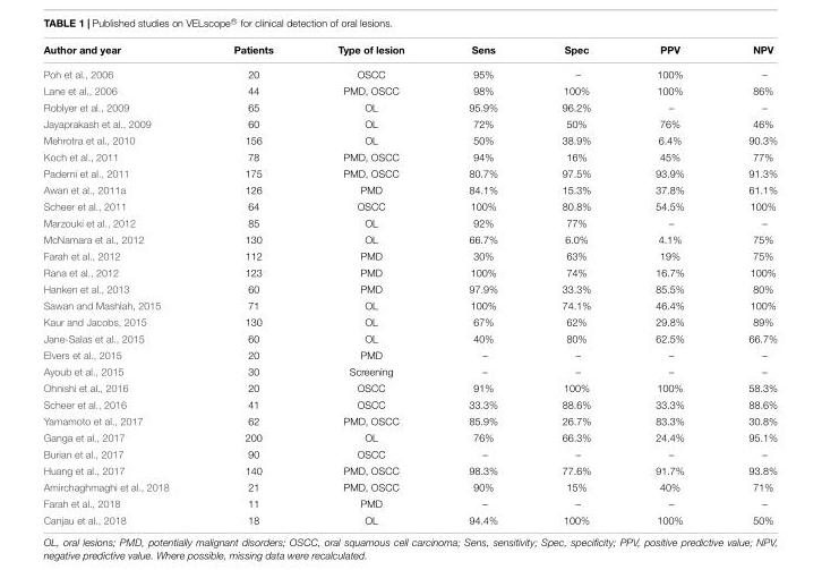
<table><thead><tr><td>Author and year</td><td>Patients</td><td>Type of lesion</td><td>Sens</td><td>Spec</td><td>PPV</td><td>NPV</td></tr></thead><tbody><tr><td>Poh et al., 2006</td><td>20</td><td>OSCC</td><td>95%</td><td>–</td><td>100%</td><td>–</td></tr><tr><td>Lane et al., 2006</td><td>44</td><td>PMD, OSCC</td><td>98%</td><td>100%</td><td>100%</td><td>86%</td></tr><tr><td>Roblyer et al., 2009</td><td>65</td><td>OL</td><td>95.9%</td><td>96.2%</td><td>–</td><td>–</td></tr><tr><td>Jayaprakash et al., 2009</td><td>60</td><td>OL</td><td>72%</td><td>50%</td><td>76%</td><td>46%</td></tr><tr><td>Mehrotra et al., 2010</td><td>156</td><td>OL</td><td>50%</td><td>38.9%</td><td>6.4%</td><td>90.3%</td></tr><tr><td>Koch et al., 2011</td><td>78</td><td>PMD, OSCC</td><td>94%</td><td>16%</td><td>45%</td><td>77%</td></tr><tr><td>Paderni et al., 2011</td><td>175</td><td>PMD, OSCC</td><td>80.7%</td><td>97.5%</td><td>93.9%</td><td>91.3%</td></tr><tr><td>Awan et al., 2011a</td><td>126</td><td>PMD</td><td>84.1%</td><td>15.3%</td><td>37.8%</td><td>61.1%</td></tr><tr><td>Scheer et al., 2011</td><td>64</td><td>OSCC</td><td>100%</td><td>80.8%</td><td>54.5%</td><td>100%</td></tr><tr><td>Marzouki et al., 2012</td><td>85</td><td>OL</td><td>92%</td><td>77%</td><td>–</td><td>–</td></tr><tr><td>McNamara et al., 2012</td><td>130</td><td>OL</td><td>66.7%</td><td>6.0%</td><td>4.1%</td><td>75%</td></tr><tr><td>Farah et al., 2012</td><td>112</td><td>PMD</td><td>30%</td><td>63%</td><td>19%</td><td>75%</td></tr><tr><td>Rana et al., 2012</td><td>123</td><td>PMD</td><td>100%</td><td>74%</td><td>16.7%</td><td>100%</td></tr><tr><td>Hanken et al., 2013</td><td>60</td><td>PMD</td><td>97.9%</td><td>33.3%</td><td>85.5%</td><td>80%</td></tr><tr><td>Sawan and Mashlah, 2015</td><td>71</td><td>OL</td><td>100%</td><td>74.1%</td><td>46.4%</td><td>100%</td></tr><tr><td>Kaur and Jacobs, 2015</td><td>130</td><td>OL</td><td>67%</td><td>62%</td><td>29.8%</td><td>89%</td></tr><tr><td>Jane-Salas et al., 2015</td><td>60</td><td>OL</td><td>40%</td><td>80%</td><td>62.5%</td><td>66.7%</td></tr><tr><td>Elvers et al., 2015</td><td>20</td><td>PMD</td><td>–</td><td>–</td><td>–</td><td>–</td></tr><tr><td>Ayoub et al., 2015</td><td>30</td><td>Screening</td><td>–</td><td>–</td><td>–</td><td>–</td></tr><tr><td>Ohnishi et al., 2016</td><td>20</td><td>OSCC</td><td>91%</td><td>100%</td><td>100%</td><td>58.3%</td></tr><tr><td>Scheer et al., 2016</td><td>41</td><td>OSCC</td><td>33.3%</td><td>88.6%</td><td>33.3%</td><td>88.6%</td></tr><tr><td>Yamamoto et al., 2017</td><td>62</td><td>PMD, OSCC</td><td>85.9%</td><td>26.7%</td><td>83.3%</td><td>30.8%</td></tr><tr><td>Ganga et al., 2017</td><td>200</td><td>OL</td><td>76%</td><td>66.3%</td><td>24.4%</td><td>95.1%</td></tr><tr><td>Burian et al., 2017</td><td>90</td><td>OSCC</td><td>–</td><td>–</td><td>–</td><td>–</td></tr><tr><td>Huang et al., 2017</td><td>140</td><td>PMD, OSCC</td><td>98.3%</td><td>77.6%</td><td>91.7%</td><td>93.8%</td></tr><tr><td>Amirchaghmaghi et al., 2018</td><td>21</td><td>PMD, OSCC</td><td>90%</td><td>15%</td><td>40%</td><td>71%</td></tr><tr><td>Farah et al., 2018</td><td>11</td><td>PMD</td><td>–</td><td>–</td><td>–</td><td>–</td></tr><tr><td>Canjau et al., 2018</td><td>18</td><td>OL</td><td>94.4%</td><td>100%</td><td>100%</td><td>50%</td></tr></tbody></table>